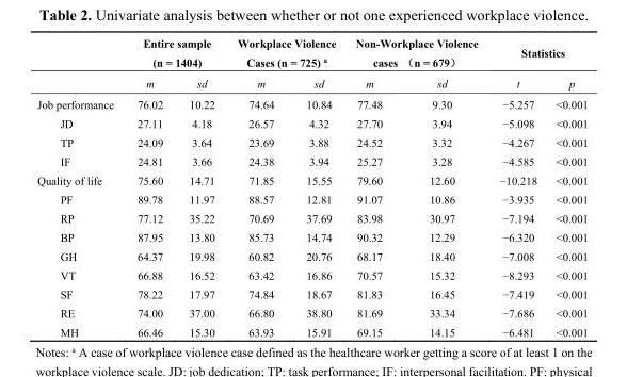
<table><thead><tr><td rowspan="2"></td><td colspan="2">Entire sample (n = 1404)</td><td colspan="2">Workplace Violence Cases (n = 725) <sup>a</sup></td><td colspan="2">Non-Workplace Violence cases （n = 679）</td><td colspan="2">Statistics</td></tr><tr><td>m</td><td>sd</td><td>m</td><td>sd</td><td>m</td><td>sd</td><td>t</td><td>p</td></tr></thead><tbody><tr><td>Job performance</td><td>76.02</td><td>10.22</td><td>74.64</td><td>10.84</td><td>77.48</td><td>9.30</td><td>−5.257</td><td>&lt;0.001</td></tr><tr><td>JD</td><td>27.11</td><td>4.18</td><td>26.57</td><td>4.32</td><td>27.70</td><td>3.94</td><td>−5.098</td><td>&lt;0.001</td></tr><tr><td>TP</td><td>24.09</td><td>3.64</td><td>23.69</td><td>3.88</td><td>24.52</td><td>3.32</td><td>−4.267</td><td>&lt;0.001</td></tr><tr><td>IF</td><td>24.81</td><td>3.66</td><td>24.38</td><td>3.94</td><td>25.27</td><td>3.28</td><td>−4.585</td><td>&lt;0.001</td></tr><tr><td>Quality of life</td><td>75.60</td><td>14.71</td><td>71.85</td><td>15.55</td><td>79.60</td><td>12.60</td><td>−10.218</td><td>&lt;0.001</td></tr><tr><td>PF</td><td>89.78</td><td>11.97</td><td>88.57</td><td>12.81</td><td>91.07</td><td>10.86</td><td>−3.935</td><td>&lt;0.001</td></tr><tr><td>RP</td><td>77.12</td><td>35.22</td><td>70.69</td><td>37.69</td><td>83.98</td><td>30.97</td><td>−7.194</td><td>&lt;0.001</td></tr><tr><td>BP</td><td>87.95</td><td>13.80</td><td>85.73</td><td>14.74</td><td>90.32</td><td>12.29</td><td>−6.320</td><td>&lt;0.001</td></tr><tr><td>GH</td><td>64.37</td><td>19.98</td><td>60.82</td><td>20.76</td><td>68.17</td><td>18.40</td><td>−7.008</td><td>&lt;0.001</td></tr><tr><td>VT</td><td>66.88</td><td>16.52</td><td>63.42</td><td>16.86</td><td>70.57</td><td>15.32</td><td>−8.293</td><td>&lt;0.001</td></tr><tr><td>SF</td><td>78.22</td><td>17.97</td><td>74.84</td><td>18.67</td><td>81.83</td><td>16.45</td><td>−7.419</td><td>&lt;0.001</td></tr><tr><td>RE</td><td>74.00</td><td>37.00</td><td>66.80</td><td>38.80</td><td>81.69</td><td>33.34</td><td>−7.686</td><td>&lt;0.001</td></tr><tr><td>MH</td><td>66.46</td><td>15.30</td><td>63.93</td><td>15.91</td><td>69.15</td><td>14.15</td><td>−6.481</td><td>&lt;0.001</td></tr></tbody></table>